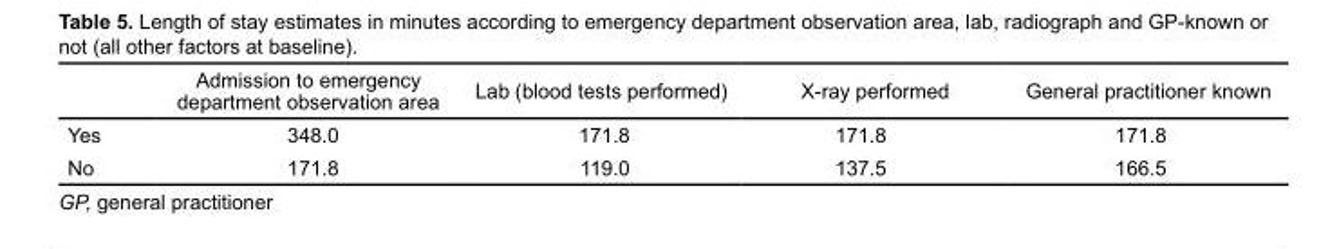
<table><thead><tr><td></td><td>Admission to emergency department observation area</td><td>Lab (blood tests performed)</td><td>X-ray performed</td><td>General practitioner known</td></tr></thead><tbody><tr><td>Yes</td><td>348.0</td><td>171.8</td><td>171.8</td><td>171.8</td></tr><tr><td>No</td><td>171.8</td><td>119.0</td><td>137.5</td><td>166.5</td></tr></tbody></table>